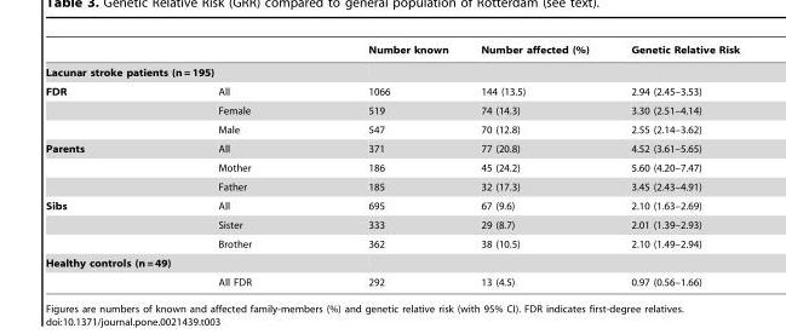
<table><thead><tr><td></td><td></td><td>Number known</td><td>Number affected (%)</td><td>Genetic Relative Risk</td></tr></thead><tbody><tr><td colspan="5">Lacunar stroke patients (n = 195)</td></tr><tr><td rowspan="3">FDR</td><td>All</td><td>1066</td><td>144 (13.5)</td><td>2.94 (2.45–3.53)</td></tr><tr><td>Female</td><td>519</td><td>74 (14.3)</td><td>3.30 (2.51–4.14)</td></tr><tr><td>Male</td><td>547</td><td>70 (12.8)</td><td>2.55 (2.14–3.62)</td></tr><tr><td rowspan="3">Parents</td><td>All</td><td>371</td><td>77 (20.8)</td><td>4.52 (3.61–5.65)</td></tr><tr><td>Mother</td><td>186</td><td>45 (24.2)</td><td>5.60 (4.20–7.47)</td></tr><tr><td>Father</td><td>185</td><td>32 (17.3)</td><td>3.45 (2.43–4.91)</td></tr><tr><td rowspan="3">Sibs</td><td>All</td><td>695</td><td>67 (9.6)</td><td>2.10 (1.63–2.69)</td></tr><tr><td>Sister</td><td>333</td><td>29 (8.7)</td><td>2.01 (1.39–2.93)</td></tr><tr><td>Brother</td><td>362</td><td>38 (10.5)</td><td>2.10 (1.49–2.94)</td></tr><tr><td colspan="5">Healthy controls (n = 49)</td></tr><tr><td></td><td>All FDR</td><td>292</td><td>13 (4.5)</td><td>0.97 (0.56–1.66)</td></tr></tbody></table>